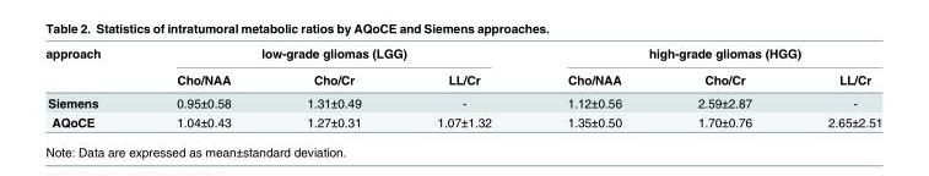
<table><thead><tr><td rowspan="2">approach</td><td colspan="3">low-grade gliomas (LGG)</td><td colspan="3">high-grade gliomas (HGG)</td></tr><tr><td>Cho/NAA</td><td>Cho/Cr</td><td>LL/Cr</td><td>Cho/NAA</td><td>Cho/Cr</td><td>LL/Cr</td></tr></thead><tbody><tr><td>Siemens</td><td>0.95±0.58</td><td>1.31±0.49</td><td>-</td><td>1.12±0.56</td><td>2.59±2.87</td><td>-</td></tr><tr><td>AQoCE</td><td>1.04±0.43</td><td>1.27±0.31</td><td>1.07±1.32</td><td>1.35±0.50</td><td>1.70±0.76</td><td>2.65±2.51</td></tr></tbody></table>